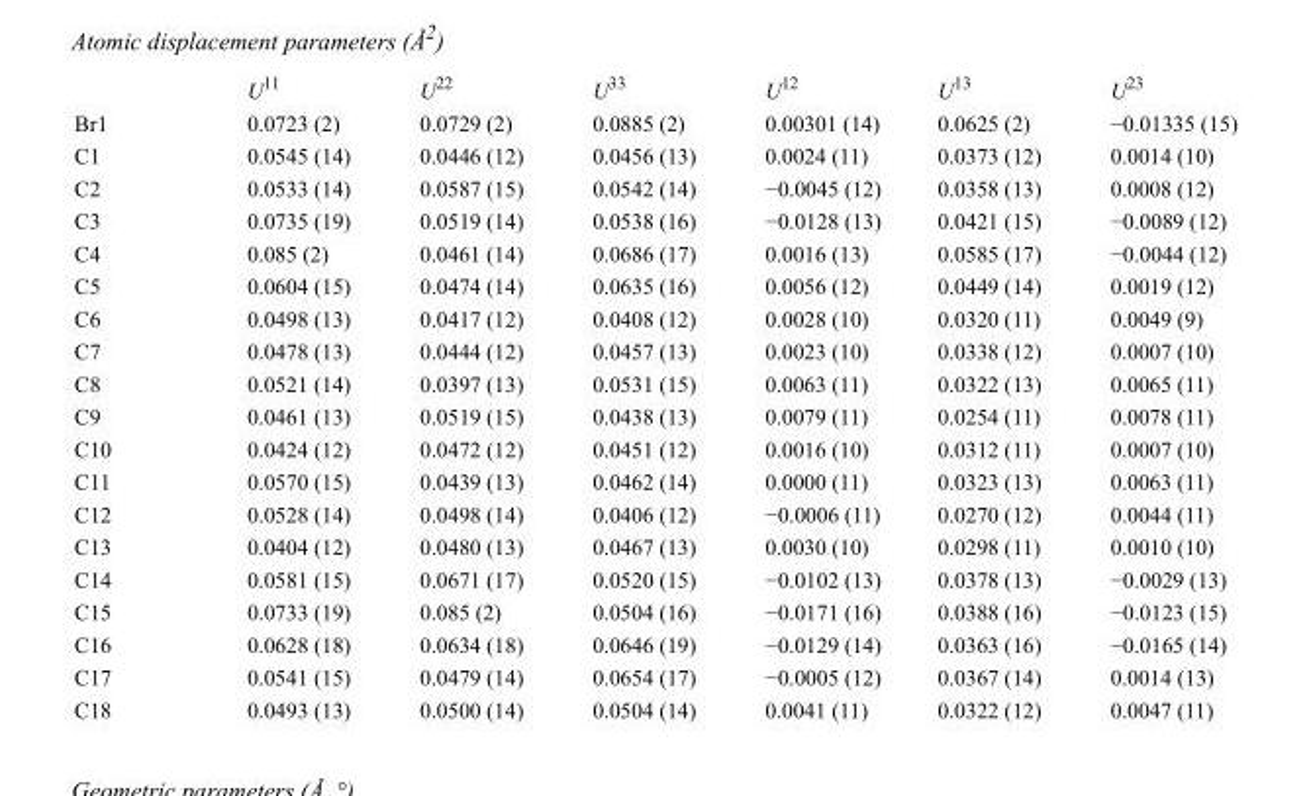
<table><thead><tr><td></td><td>U<sup>11</sup></td><td>U<sup>22</sup></td><td>U<sup>33</sup></td><td>U<sup>12</sup></td><td>U<sup>13</sup></td><td>U<sup>23</sup></td></tr></thead><tbody><tr><td>Br1</td><td>0.0723 (2)</td><td>0.0729 (2)</td><td>0.0885 (2)</td><td>0.00301 (14)</td><td>0.0625 (2)</td><td>−0.01335 (15)</td></tr><tr><td>C1</td><td>0.0545 (14)</td><td>0.0446 (12)</td><td>0.0456 (13)</td><td>0.0024 (11)</td><td>0.0373 (12)</td><td>0.0014 (10)</td></tr><tr><td>C2</td><td>0.0533 (14)</td><td>0.0587 (15)</td><td>0.0542 (14)</td><td>−0.0045 (12)</td><td>0.0358 (13)</td><td>0.0008 (12)</td></tr><tr><td>C3</td><td>0.0735 (19)</td><td>0.0519 (14)</td><td>0.0538 (16)</td><td>−0.0128 (13)</td><td>0.0421 (15)</td><td>−0.0089 (12)</td></tr><tr><td>C4</td><td>0.085 (2)</td><td>0.0461 (14)</td><td>0.0686 (17)</td><td>0.0016 (13)</td><td>0.0585 (17)</td><td>−0.0044 (12)</td></tr><tr><td>C5</td><td>0.0604 (15)</td><td>0.0474 (14)</td><td>0.0635 (16)</td><td>0.0056 (12)</td><td>0.0449 (14)</td><td>0.0019 (12)</td></tr><tr><td>C6</td><td>0.0498 (13)</td><td>0.0417 (12)</td><td>0.0408 (12)</td><td>0.0028 (10)</td><td>0.0320 (11)</td><td>0.0049 (9)</td></tr><tr><td>C7</td><td>0.0478 (13)</td><td>0.0444 (12)</td><td>0.0457 (13)</td><td>0.0023 (10)</td><td>0.0338 (12)</td><td>0.0007 (10)</td></tr><tr><td>C8</td><td>0.0521 (14)</td><td>0.0397 (13)</td><td>0.0531 (15)</td><td>0.0063 (11)</td><td>0.0322 (13)</td><td>0.0065 (11)</td></tr><tr><td>C9</td><td>0.0461 (13)</td><td>0.0519 (15)</td><td>0.0438 (13)</td><td>0.0079 (11)</td><td>0.0254 (11)</td><td>0.0078 (11)</td></tr><tr><td>C10</td><td>0.0424 (12)</td><td>0.0472 (12)</td><td>0.0451 (12)</td><td>0.0016 (10)</td><td>0.0312 (11)</td><td>0.0007 (10)</td></tr><tr><td>C11</td><td>0.0570 (15)</td><td>0.0439 (13)</td><td>0.0462 (14)</td><td>0.0000 (11)</td><td>0.0323 (13)</td><td>0.0063 (11)</td></tr><tr><td>C12</td><td>0.0528 (14)</td><td>0.0498 (14)</td><td>0.0406 (12)</td><td>−0.0006 (11)</td><td>0.0270 (12)</td><td>0.0044 (11)</td></tr><tr><td>C13</td><td>0.0404 (12)</td><td>0.0480 (13)</td><td>0.0467 (13)</td><td>0.0030 (10)</td><td>0.0298 (11)</td><td>0.0010 (10)</td></tr><tr><td>C14</td><td>0.0581 (15)</td><td>0.0671 (17)</td><td>0.0520 (15)</td><td>−0.0102 (13)</td><td>0.0378 (13)</td><td>−0.0029 (13)</td></tr><tr><td>C15</td><td>0.0733 (19)</td><td>0.085 (2)</td><td>0.0504 (16)</td><td>−0.0171 (16)</td><td>0.0388 (16)</td><td>−0.0123 (15)</td></tr><tr><td>C16</td><td>0.0628 (18)</td><td>0.0634 (18)</td><td>0.0646 (19)</td><td>−0.0129 (14)</td><td>0.0363 (16)</td><td>−0.0165 (14)</td></tr><tr><td>C17</td><td>0.0541 (15)</td><td>0.0479 (14)</td><td>0.0654 (17)</td><td>−0.0005 (12)</td><td>0.0367 (14)</td><td>0.0014 (13)</td></tr><tr><td>C18</td><td>0.0493 (13)</td><td>0.0500 (14)</td><td>0.0504 (14)</td><td>0.0041 (11)</td><td>0.0322 (12)</td><td>0.0047 (11)</td></tr></tbody></table>